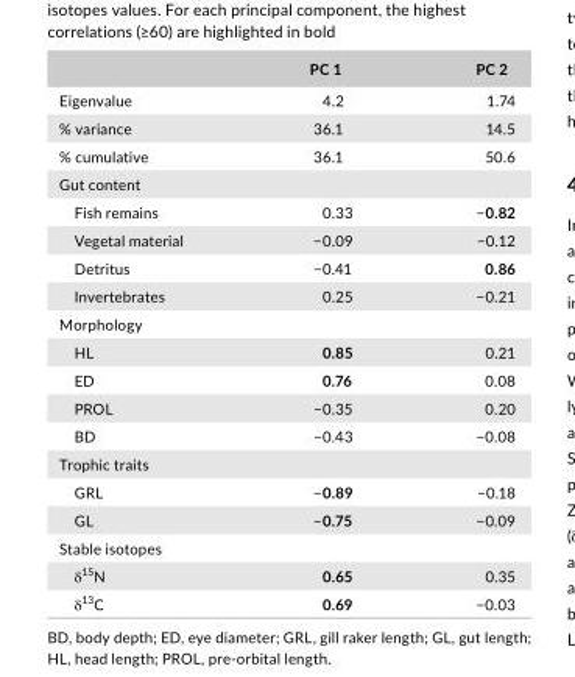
<table><thead><tr><td></td><td>PC 1</td><td>PC 2</td></tr></thead><tbody><tr><td>Eigenvalue</td><td>4.2</td><td>1.74</td></tr><tr><td>% variance</td><td>36.1</td><td>14.5</td></tr><tr><td>% cumulative</td><td>36.1</td><td>50.6</td></tr><tr><td colspan="3">Gut content</td></tr><tr><td>Fish remains</td><td>0.33</td><td>−0.82</td></tr><tr><td>Vegetal material</td><td>−0.09</td><td>−0.12</td></tr><tr><td>Detritus</td><td>−0.41</td><td>0.86</td></tr><tr><td>Invertebrates</td><td>0.25</td><td>−0.21</td></tr><tr><td colspan="3">Morphology</td></tr><tr><td>HL</td><td>0.85</td><td>0.21</td></tr><tr><td>ED</td><td>0.76</td><td>0.08</td></tr><tr><td>PROL</td><td>−0.35</td><td>0.20</td></tr><tr><td>BD</td><td>−0.43</td><td>−0.08</td></tr><tr><td colspan="3">Trophic traits</td></tr><tr><td>GRL</td><td>−0.89</td><td>−0.18</td></tr><tr><td>GL</td><td>−0.75</td><td>−0.09</td></tr><tr><td colspan="3">Stable isotopes</td></tr><tr><td>δ<sup>15</sup>N</td><td>0.65</td><td>0.35</td></tr><tr><td>δ<sup>13</sup>C</td><td>0.69</td><td>−0.03</td></tr></tbody></table>